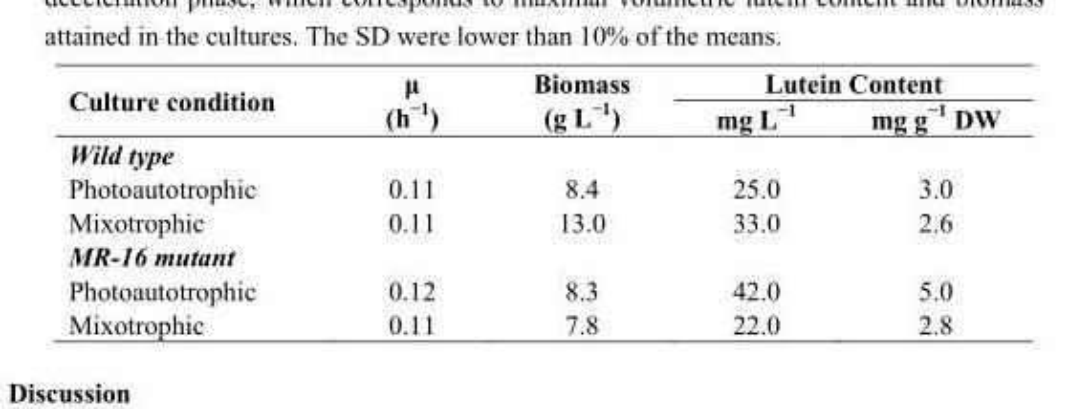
<table><thead><tr><td rowspan="2">Culture condition</td><td rowspan="2">μ (h<sup>−1</sup>)</td><td rowspan="2">Biomass (g L<sup>−1</sup>)</td><td colspan="2">Lutein Content</td></tr><tr><td>mg L<sup>−1</sup></td><td>mg g<sup>−1</sup> DW</td></tr></thead><tbody><tr><td colspan="5">Wild type</td></tr><tr><td>Photoautotrophic</td><td>0.11</td><td>8.4</td><td>25.0</td><td>3.0</td></tr><tr><td>Mixotrophic</td><td>0.11</td><td>13.0</td><td>33.0</td><td>2.6</td></tr><tr><td colspan="5">MR-16 mutant</td></tr><tr><td>Photoautotrophic</td><td>0.12</td><td>8.3</td><td>42.0</td><td>5.0</td></tr><tr><td>Mixotrophic</td><td>0.11</td><td>7.8</td><td>22.0</td><td>2.8</td></tr></tbody></table>